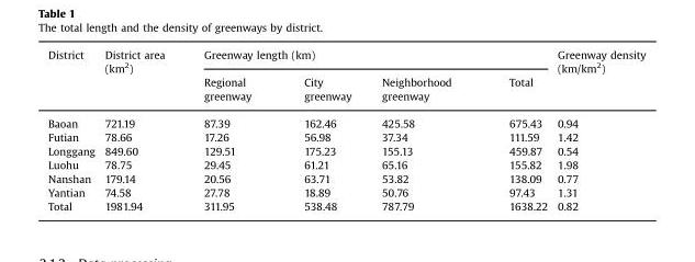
<table><thead><tr><td rowspan="2">District</td><td rowspan="2">District area (km<sup>2</sup>)</td><td colspan="4">Greenway length (km)</td><td rowspan="2">Greenway density (km/km<sup>2</sup>)</td></tr><tr><td>Regional greenway</td><td>City greenway</td><td>Neighborhood greenway</td><td>Total</td></tr></thead><tbody><tr><td>Baoan</td><td>721.19</td><td>87.39</td><td>162.46</td><td>425.58</td><td>675.43</td><td>0.94</td></tr><tr><td>Futian</td><td>78.66</td><td>17.26</td><td>56.98</td><td>37.34</td><td>111.59</td><td>1.42</td></tr><tr><td>Longgang</td><td>849.60</td><td>129.51</td><td>175.23</td><td>155.13</td><td>459.87</td><td>0.54</td></tr><tr><td>Luohu</td><td>78.75</td><td>29.45</td><td>61.21</td><td>65.16</td><td>155.82</td><td>1.98</td></tr><tr><td>Nanshan</td><td>179.14</td><td>20.56</td><td>63.71</td><td>53.82</td><td>138.09</td><td>0.77</td></tr><tr><td>Yantian</td><td>74.58</td><td>27.78</td><td>18.89</td><td>50.76</td><td>97.43</td><td>1.31</td></tr><tr><td>Total</td><td>1981.94</td><td>311.95</td><td>538.48</td><td>787.79</td><td>1638.22</td><td>0.82</td></tr></tbody></table>